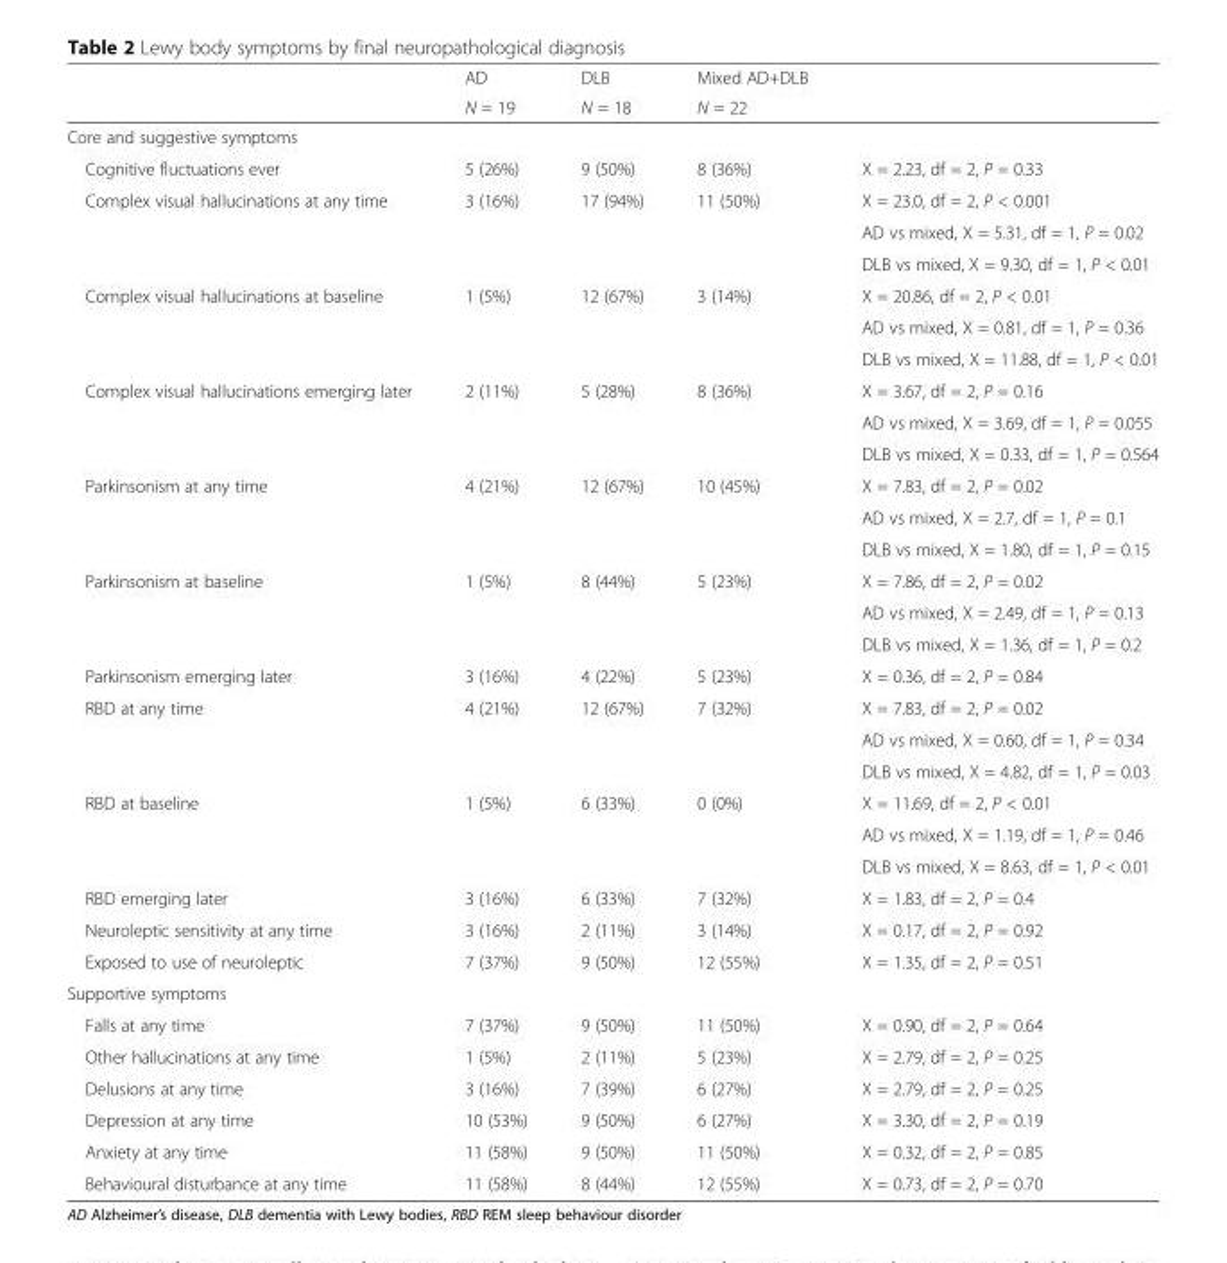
<table><thead><tr><td rowspan="2"></td><td rowspan="2">AD N = 19</td><td rowspan="2">DLB N = 18</td><td rowspan="2">Mixed AD+DLB N = 22</td><td rowspan="2"></td></tr><tr></tr></thead><tbody><tr><td colspan="5">Core and suggestive symptoms</td></tr><tr><td>Cognitive fluctuations ever</td><td>5 (26%)</td><td>9 (50%)</td><td>8 (36%)</td><td>X = 2.23, df = 2, P = 0.33</td></tr><tr><td rowspan="3">Complex visual hallucinations at any time</td><td rowspan="3">3 (16%)</td><td rowspan="3">17 (94%)</td><td rowspan="3">11 (50%)</td><td>X = 23.0, df = 2, P &lt; 0.001</td></tr><tr><td>AD vs mixed, X = 5.31, df = 1, P = 0.02</td></tr><tr><td>DLB vs mixed, X = 9.30, df = 1, P &lt; 0.01</td></tr><tr><td rowspan="3">Complex visual hallucinations at baseline</td><td rowspan="3">1 (5%)</td><td rowspan="3">12 (67%)</td><td rowspan="3">3 (14%)</td><td>X = 20.86, df = 2, P &lt; 0.01</td></tr><tr><td>AD vs mixed, X = 0.81, df = 1, P = 0.36</td></tr><tr><td>DLB vs mixed, X = 11.88, df = 1, P &lt; 0.01</td></tr><tr><td rowspan="3">Complex visual hallucinations emerging later</td><td rowspan="3">2 (11%)</td><td rowspan="3">5 (28%)</td><td rowspan="3">8 (36%)</td><td>X = 3.67, df = 2, P = 0.16</td></tr><tr><td>AD vs mixed, X = 3.69, df = 1, P = 0.055</td></tr><tr><td>DLB vs mixed, X = 0.33, df = 1, P = 0.564</td></tr><tr><td rowspan="3">Parkinsonism at any time</td><td rowspan="3">4 (21%)</td><td rowspan="3">12 (67%)</td><td rowspan="3">10 (45%)</td><td>X = 7.83, df = 2, P = 0.02</td></tr><tr><td>AD vs mixed, X = 2.7, df = 1, P = 0.1</td></tr><tr><td>DLB vs mixed, X = 1.80, df = 1, P = 0.15</td></tr><tr><td rowspan="3">Parkinsonism at baseline</td><td rowspan="3">1 (5%)</td><td rowspan="3">8 (44%)</td><td rowspan="3">5 (23%)</td><td>X = 7.86, df = 2, P = 0.02</td></tr><tr><td>AD vs mixed, X = 2.49, df = 1, P = 0.13</td></tr><tr><td>DLB vs mixed, X = 1.36, df = 1, P = 0.2</td></tr><tr><td>Parkinsonism emerging later</td><td>3 (16%)</td><td>4 (22%)</td><td>5 (23%)</td><td>X = 0.36, df = 2, P = 0.84</td></tr><tr><td rowspan="3">RBD at any time</td><td rowspan="3">4 (21%)</td><td rowspan="3">12 (67%)</td><td rowspan="3">7 (32%)</td><td>X = 7.83, df = 2, P = 0.02</td></tr><tr><td>AD vs mixed, X = 0.60, df = 1, P = 0.34</td></tr><tr><td>DLB vs mixed, X = 4.82, df = 1, P = 0.03</td></tr><tr><td rowspan="3">RBD at baseline</td><td rowspan="3">1 (5%)</td><td rowspan="3">6 (33%)</td><td rowspan="3">0 (0%)</td><td>X = 11.69, df = 2, P &lt; 0.01</td></tr><tr><td>AD vs mixed, X = 1.19, df = 1, P = 0.46</td></tr><tr><td>DLB vs mixed, X = 8.63, df = 1, P &lt; 0.01</td></tr><tr><td>RBD emerging later</td><td>3 (16%)</td><td>6 (33%)</td><td>7 (32%)</td><td>X = 1.83, df = 2, P = 0.4</td></tr><tr><td>Neuroleptic sensitivity at any time</td><td>3 (16%)</td><td>2 (11%)</td><td>3 (14%)</td><td>X = 0.17, df = 2, P = 0.92</td></tr><tr><td>Exposed to use of neuroleptic</td><td>7 (37%)</td><td>9 (50%)</td><td>12 (55%)</td><td>X = 1.35, df = 2, P = 0.51</td></tr><tr><td colspan="5">Supportive symptoms</td></tr><tr><td>Falls at any time</td><td>7 (37%)</td><td>9 (50%)</td><td>11 (50%)</td><td>X = 0.90, df = 2, P = 0.64</td></tr><tr><td>Other hallucinations at any time</td><td>1 (5%)</td><td>2 (11%)</td><td>5 (23%)</td><td>X = 2.79, df = 2, P = 0.25</td></tr><tr><td>Delusions at any time</td><td>3 (16%)</td><td>7 (39%)</td><td>6 (27%)</td><td>X = 2.79, df = 2, P = 0.25</td></tr><tr><td>Depression at any time</td><td>10 (53%)</td><td>9 (50%)</td><td>6 (27%)</td><td>X = 3.30, df = 2, P = 0.19</td></tr><tr><td>Anxiety at any time</td><td>11 (58%)</td><td>9 (50%)</td><td>11 (50%)</td><td>X = 0.32, df = 2, P = 0.85</td></tr><tr><td>Behavioural disturbance at any time</td><td>11 (58%)</td><td>8 (44%)</td><td>12 (55%)</td><td>X = 0.73, df = 2, P = 0.70</td></tr></tbody></table>